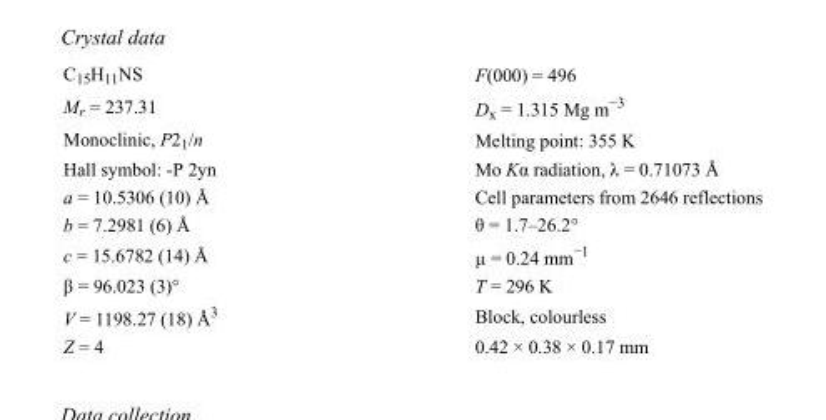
<table><tbody><tr><td>C<sub>15</sub>H<sub>11</sub>NS</td><td>F(000) = 496</td></tr><tr><td>M<sub>r</sub> = 237.31</td><td>D<sub>x</sub> = 1.315 Mg m<sup>−3</sup></td></tr><tr><td>Monoclinic, P2<sub>1</sub>/n</td><td>Melting point: 355 K</td></tr><tr><td>Hall symbol: -P 2yn</td><td>Mo Kα radiation, λ = 0.71073 Å</td></tr><tr><td>a = 10.5306 (10) Å</td><td>Cell parameters from 2646 reflections</td></tr><tr><td>b = 7.2981 (6) Å</td><td>θ = 1.7–26.2°</td></tr><tr><td>c = 15.6782 (14) Å</td><td>µ = 0.24 mm<sup>−1</sup></td></tr><tr><td>β = 96.023 (3)°</td><td>T = 296 K</td></tr><tr><td>V = 1198.27 (18) Å<sup>3</sup></td><td>Block, colourless</td></tr><tr><td>Z = 4</td><td>0.42 × 0.38 × 0.17 mm</td></tr></tbody></table>